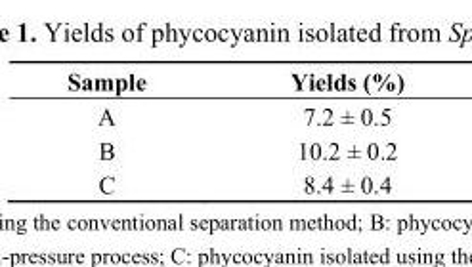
<table><thead><tr><td>Sample</td><td>Yields (%)</td></tr></thead><tbody><tr><td>A</td><td>7.2 ± 0.5</td></tr><tr><td>B</td><td>10.2 ± 0.2</td></tr><tr><td>C</td><td>8.4 ± 0.4</td></tr></tbody></table>